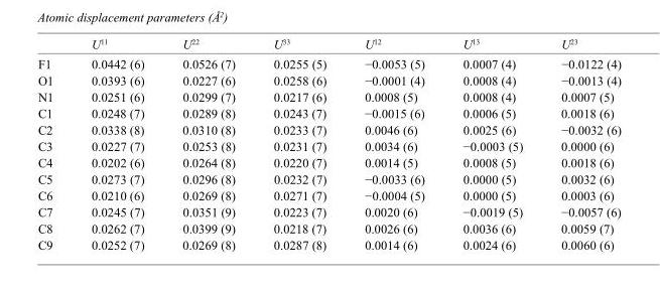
<table><thead><tr><td></td><td>U<sup>11</sup></td><td>U<sup>22</sup></td><td>U<sup>33</sup></td><td>U<sup>12</sup></td><td>U<sup>13</sup></td><td>U<sup>23</sup></td></tr></thead><tbody><tr><td>F1</td><td>0.0442 (6)</td><td>0.0526 (7)</td><td>0.0255 (5)</td><td>−0.0053 (5)</td><td>0.0007 (4)</td><td>−0.0122 (4)</td></tr><tr><td>O1</td><td>0.0393 (6)</td><td>0.0227 (6)</td><td>0.0258 (6)</td><td>−0.0001 (4)</td><td>0.0008 (4)</td><td>−0.0013 (4)</td></tr><tr><td>N1</td><td>0.0251 (6)</td><td>0.0299 (7)</td><td>0.0217 (6)</td><td>0.0008 (5)</td><td>0.0008 (4)</td><td>0.0007 (5)</td></tr><tr><td>C1</td><td>0.0248 (7)</td><td>0.0289 (8)</td><td>0.0243 (7)</td><td>−0.0015 (6)</td><td>0.0006 (5)</td><td>0.0018 (6)</td></tr><tr><td>C2</td><td>0.0338 (8)</td><td>0.0310 (8)</td><td>0.0233 (7)</td><td>0.0046 (6)</td><td>0.0025 (6)</td><td>−0.0032 (6)</td></tr><tr><td>C3</td><td>0.0227 (7)</td><td>0.0253 (8)</td><td>0.0231 (7)</td><td>0.0034 (6)</td><td>−0.0003 (5)</td><td>0.0000 (6)</td></tr><tr><td>C4</td><td>0.0202 (6)</td><td>0.0264 (8)</td><td>0.0220 (7)</td><td>0.0014 (5)</td><td>0.0008 (5)</td><td>0.0018 (6)</td></tr><tr><td>C5</td><td>0.0273 (7)</td><td>0.0296 (8)</td><td>0.0232 (7)</td><td>−0.0033 (6)</td><td>0.0000 (5)</td><td>0.0032 (6)</td></tr><tr><td>C6</td><td>0.0210 (6)</td><td>0.0269 (8)</td><td>0.0271 (7)</td><td>−0.0004 (5)</td><td>0.0000 (5)</td><td>0.0003 (6)</td></tr><tr><td>C7</td><td>0.0245 (7)</td><td>0.0351 (9)</td><td>0.0223 (7)</td><td>0.0020 (6)</td><td>−0.0019 (5)</td><td>−0.0057 (6)</td></tr><tr><td>C8</td><td>0.0262 (7)</td><td>0.0399 (9)</td><td>0.0218 (7)</td><td>0.0026 (6)</td><td>0.0036 (6)</td><td>0.0059 (7)</td></tr><tr><td>C9</td><td>0.0252 (7)</td><td>0.0269 (8)</td><td>0.0287 (8)</td><td>0.0014 (6)</td><td>0.0024 (6)</td><td>0.0060 (6)</td></tr></tbody></table>